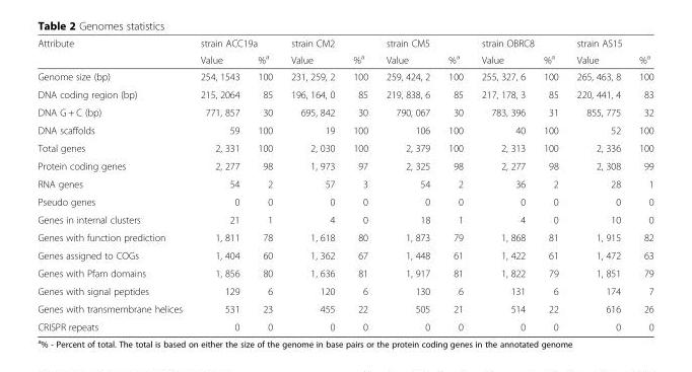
<table><thead><tr><td rowspan="2">Attribute</td><td colspan="2">strain ACC19a</td><td colspan="2">strain CM2</td><td colspan="2">strain CM5</td><td colspan="2">strain OBRC8</td><td colspan="2">strain AS15</td></tr><tr><td>Value</td><td>%<sup>a</sup></td><td>Value</td><td>%<sup>a</sup></td><td>Value</td><td>%<sup>a</sup></td><td>Value</td><td>%<sup>a</sup></td><td>Value</td><td>%<sup>a</sup></td></tr></thead><tbody><tr><td>Genome size (bp)</td><td>254, 1543</td><td>100</td><td>231, 259, 2</td><td>100</td><td>259, 424, 2</td><td>100</td><td>255, 327, 6</td><td>100</td><td>265, 463, 8</td><td>100</td></tr><tr><td>DNA coding region (bp)</td><td>215, 2064</td><td>85</td><td>196, 164, 0</td><td>85</td><td>219, 838, 6</td><td>85</td><td>217, 178, 3</td><td>85</td><td>220, 441, 4</td><td>83</td></tr><tr><td>DNA G + C (bp)</td><td>771, 857</td><td>30</td><td>695, 842</td><td>30</td><td>790, 067</td><td>30</td><td>783, 396</td><td>31</td><td>855, 775</td><td>32</td></tr><tr><td>DNA scaffolds</td><td>59</td><td>100</td><td>19</td><td>100</td><td>106</td><td>100</td><td>40</td><td>100</td><td>52</td><td>100</td></tr><tr><td>Total genes</td><td>2, 331</td><td>100</td><td>2, 030</td><td>100</td><td>2, 379</td><td>100</td><td>2, 313</td><td>100</td><td>2, 336</td><td>100</td></tr><tr><td>Protein coding genes</td><td>2, 277</td><td>98</td><td>1, 973</td><td>97</td><td>2, 325</td><td>98</td><td>2, 277</td><td>98</td><td>2, 308</td><td>99</td></tr><tr><td>RNA genes</td><td>54</td><td>2</td><td>57</td><td>3</td><td>54</td><td>2</td><td>36</td><td>2</td><td>28</td><td>1</td></tr><tr><td>Pseudo genes</td><td>0</td><td>0</td><td>0</td><td>0</td><td>0</td><td>0</td><td>0</td><td>0</td><td>0</td><td>0</td></tr><tr><td>Genes in internal clusters</td><td>21</td><td>1</td><td>4</td><td>0</td><td>18</td><td>1</td><td>4</td><td>0</td><td>10</td><td>0</td></tr><tr><td>Genes with function prediction</td><td>1, 811</td><td>78</td><td>1, 618</td><td>80</td><td>1, 873</td><td>79</td><td>1, 868</td><td>81</td><td>1, 915</td><td>82</td></tr><tr><td>Genes assigned to COGs</td><td>1, 404</td><td>60</td><td>1, 362</td><td>67</td><td>1, 448</td><td>61</td><td>1, 422</td><td>61</td><td>1, 472</td><td>63</td></tr><tr><td>Genes with Pfam domains</td><td>1, 856</td><td>80</td><td>1, 636</td><td>81</td><td>1, 917</td><td>81</td><td>1, 822</td><td>79</td><td>1, 851</td><td>79</td></tr><tr><td>Genes with signal peptides</td><td>129</td><td>6</td><td>120</td><td>6</td><td>130</td><td>6</td><td>131</td><td>6</td><td>174</td><td>7</td></tr><tr><td>Genes with transmembrane helices</td><td>531</td><td>23</td><td>455</td><td>22</td><td>505</td><td>21</td><td>514</td><td>22</td><td>616</td><td>26</td></tr><tr><td>CRISPR repeats</td><td>0</td><td>0</td><td>0</td><td>0</td><td>0</td><td>0</td><td>0</td><td>0</td><td>0</td><td>0</td></tr></tbody></table>